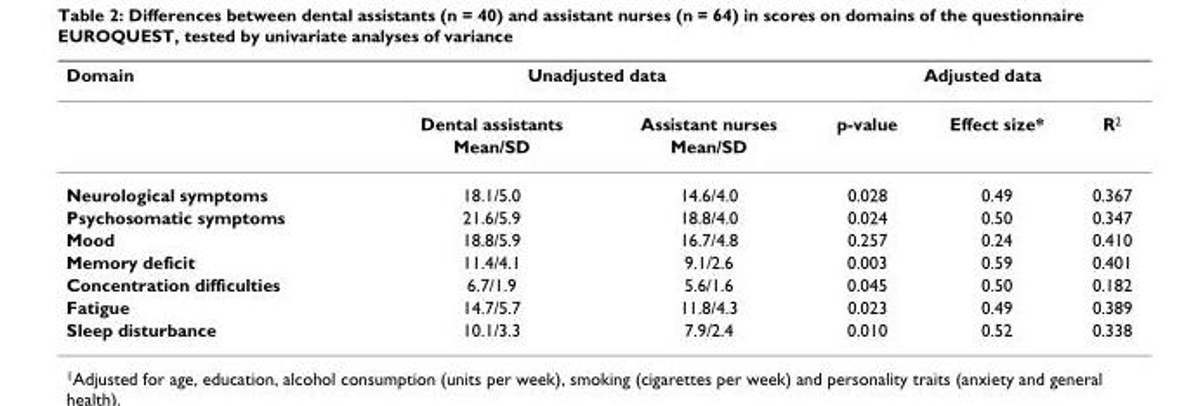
<table><thead><tr><td rowspan="2">Domain</td><td colspan="2">Unadjusted data</td><td colspan="3">Adjusted data</td></tr><tr><td>Dental assistants</td><td>Assistant nurses</td><td>p-value</td><td>Effect size*</td><td>R<sup>2</sup></td></tr></thead><tbody><tr><td></td><td>Mean/SD</td><td>Mean/SD</td><td colspan="3"></td></tr><tr><td>Neurological symptoms</td><td>18.1/5.0</td><td>14.6/4.0</td><td>0.028</td><td>0.49</td><td>0.367</td></tr><tr><td>Psychosomatic symptoms</td><td>21.6/5.9</td><td>18.8/4.0</td><td>0.024</td><td>0.50</td><td>0.347</td></tr><tr><td>Mood</td><td>18.8/5.9</td><td>16.7/4.8</td><td>0.257</td><td>0.24</td><td>0.410</td></tr><tr><td>Memory deficit</td><td>11.4/4.1</td><td>9.1/2.6</td><td>0.003</td><td>0.59</td><td>0.401</td></tr><tr><td>Concentration difficulties</td><td>6.7/1.9</td><td>5.6/1.6</td><td>0.045</td><td>0.50</td><td>0.182</td></tr><tr><td>Fatigue</td><td>14.7/5.7</td><td>11.8/4.3</td><td>0.023</td><td>0.49</td><td>0.389</td></tr><tr><td>Sleep disturbance</td><td>10.1/3.3</td><td>7.9/2.4</td><td>0.010</td><td>0.52</td><td>0.338</td></tr></tbody></table>